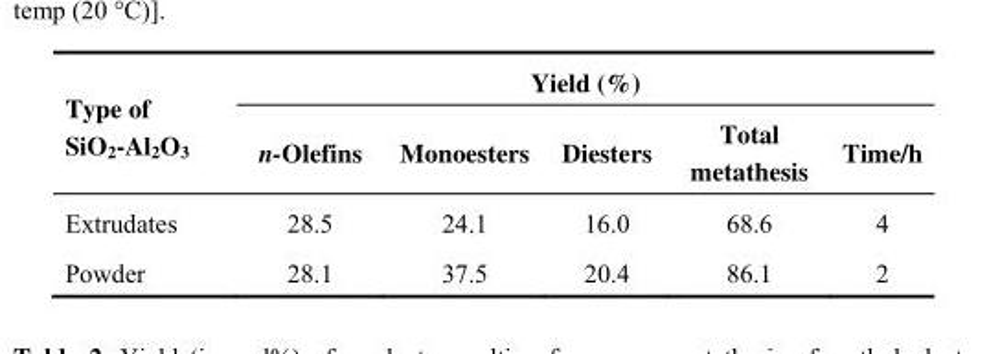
<table><thead><tr><td rowspan="2">Type of SiO<sub>2</sub>-Al<sub>2</sub>O<sub>3</sub></td><td colspan="5">Yield (%)</td></tr><tr><td>n-Olefins</td><td>Monoesters</td><td>Diesters</td><td>Total metathesis</td><td>Time/h</td></tr></thead><tbody><tr><td>Extrudates</td><td>28.5</td><td>24.1</td><td>16.0</td><td>68.6</td><td>4</td></tr><tr><td>Powder</td><td>28.1</td><td>37.5</td><td>20.4</td><td>86.1</td><td>2</td></tr></tbody></table>